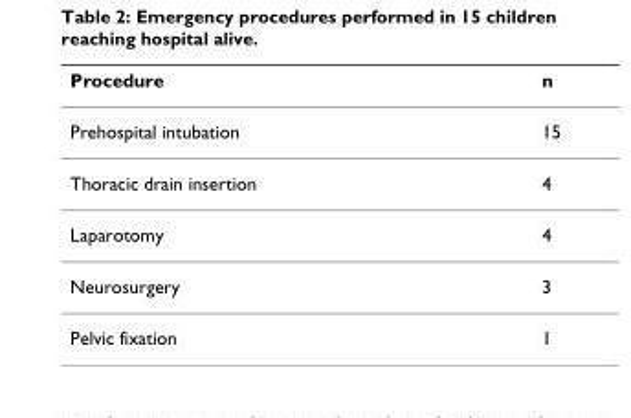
<table><thead><tr><td>Procedure</td><td>n</td></tr></thead><tbody><tr><td>Prehospital intubation</td><td>15</td></tr><tr><td>Thoracic drain insertion</td><td>4</td></tr><tr><td>Laparotomy</td><td>4</td></tr><tr><td>Neurosurgery</td><td>3</td></tr><tr><td>Pelvic fixation</td><td>1</td></tr></tbody></table>